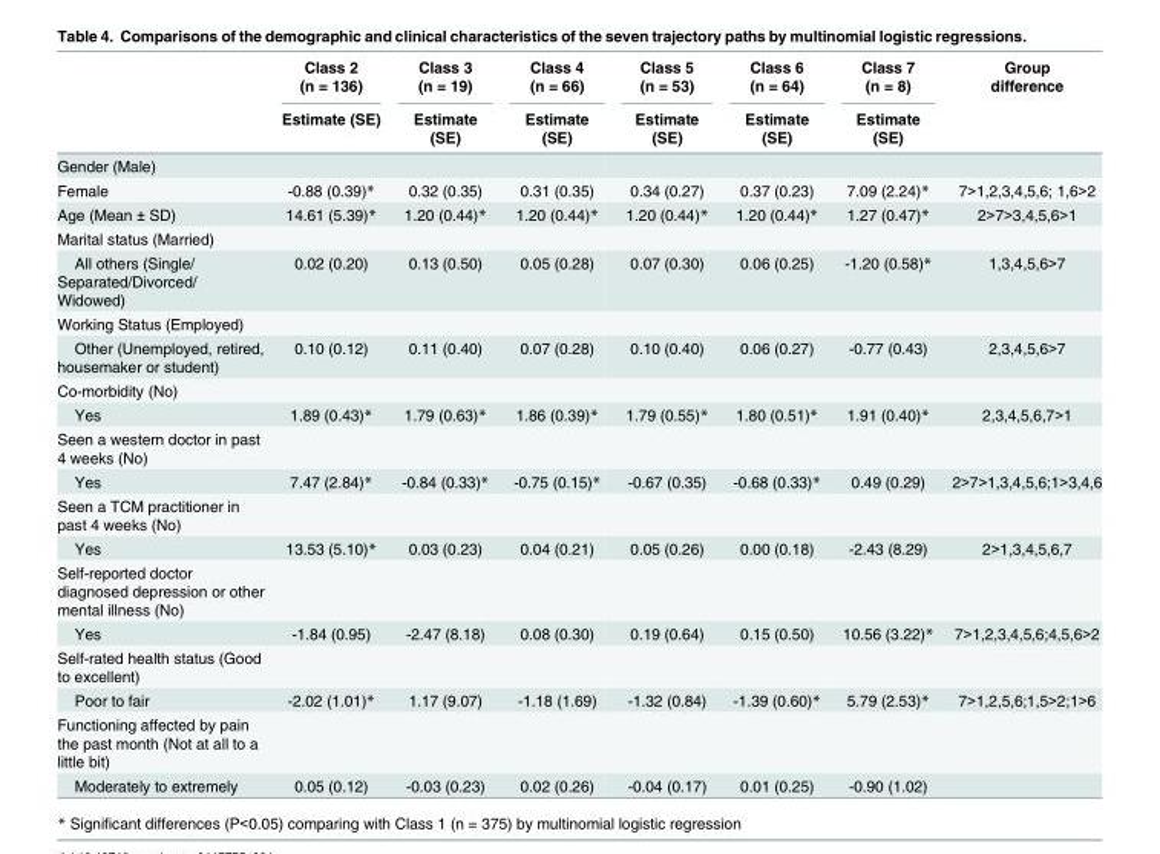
<table><thead><tr><td rowspan="2"></td><td rowspan="2">Class 2 (n = 136) Estimate (SE)</td><td rowspan="2">Class 3 (n = 19) Estimate (SE)</td><td rowspan="2">Class 4 (n = 66) Estimate (SE)</td><td rowspan="2">Class 5 (n = 53) Estimate (SE)</td><td rowspan="2">Class 6 (n = 64) Estimate (SE)</td><td rowspan="2">Class 7 (n = 8) Estimate (SE)</td><td rowspan="2">Group difference</td></tr><tr></tr></thead><tbody><tr><td colspan="8">Gender (Male)</td></tr><tr><td>Female</td><td>-0.88 (0.39)*</td><td>0.32 (0.35)</td><td>0.31 (0.35)</td><td>0.34 (0.27)</td><td>0.37 (0.23)</td><td>7.09 (2.24)*</td><td>7&gt;1,2,3,4,5,6; 1,6&gt;2</td></tr><tr><td>Age (Mean ± SD)</td><td>14.61 (5.39)*</td><td>1.20 (0.44)*</td><td>1.20 (0.44)*</td><td>1.20 (0.44)*</td><td>1.20 (0.44)*</td><td>1.27 (0.47)*</td><td>2&gt;7&gt;3,4,5,6&gt;1</td></tr><tr><td colspan="8">Marital status (Married)</td></tr><tr><td>All others (Single/ Separated/Divorced/ Widowed)</td><td>0.02 (0.20)</td><td>0.13 (0.50)</td><td>0.05 (0.28)</td><td>0.07 (0.30)</td><td>0.06 (0.25)</td><td>-1.20 (0.58)*</td><td>1,3,4,5,6&gt;7</td></tr><tr><td colspan="8">Working Status (Employed)</td></tr><tr><td>Other (Unemployed, retired, housemaker or student)</td><td>0.10 (0.12)</td><td>0.11 (0.40)</td><td>0.07 (0.28)</td><td>0.10 (0.40)</td><td>0.06 (0.27)</td><td>-0.77 (0.43)</td><td>2,3,4,5,6&gt;7</td></tr><tr><td colspan="8">Co-morbidity (No)</td></tr><tr><td>Yes</td><td>1.89 (0.43)*</td><td>1.79 (0.63)*</td><td>1.86 (0.39)*</td><td>1.79 (0.55)*</td><td>1.80 (0.51)*</td><td>1.91 (0.40)*</td><td>2,3,4,5,6,7&gt;1</td></tr><tr><td colspan="8">Seen a western doctor in past 4 weeks (No)</td></tr><tr><td>Yes</td><td>7.47 (2.84)*</td><td>-0.84 (0.33)*</td><td>-0.75 (0.15)*</td><td>-0.67 (0.35)</td><td>-0.68 (0.33)*</td><td>0.49 (0.29)</td><td>2&gt;7&gt;1,3,4,5,6;1&gt;3,4,6</td></tr><tr><td colspan="8">Seen a TCM practitioner in past 4 weeks (No)</td></tr><tr><td>Yes</td><td>13.53 (5.10)*</td><td>0.03 (0.23)</td><td>0.04 (0.21)</td><td>0.05 (0.26)</td><td>0.00 (0.18)</td><td>-2.43 (8.29)</td><td>2&gt;1,3,4,5,6,7</td></tr><tr><td colspan="8">Self-reported doctor diagnosed depression or other mental illness (No)</td></tr><tr><td>Yes</td><td>-1.84 (0.95)</td><td>-2.47 (8.18)</td><td>0.08 (0.30)</td><td>0.19 (0.64)</td><td>0.15 (0.50)</td><td>10.56 (3.22)*</td><td>7&gt;1,2,3,4,5,6;4,5,6&gt;2</td></tr><tr><td colspan="8">Self-rated health status (Good to excellent)</td></tr><tr><td>Poor to fair</td><td>-2.02 (1.01)*</td><td>1.17 (9.07)</td><td>-1.18 (1.69)</td><td>-1.32 (0.84)</td><td>-1.39 (0.60)*</td><td>5.79 (2.53)*</td><td>7&gt;1,2,5,6;1,5&gt;2;1&gt;6</td></tr><tr><td colspan="8">Functioning affected by pain the past month (Not at all to a little bit)</td></tr><tr><td>Moderately to extremely</td><td>0.05 (0.12)</td><td>-0.03 (0.23)</td><td>0.02 (0.26)</td><td>-0.04 (0.17)</td><td>0.01 (0.25)</td><td>-0.90 (1.02)</td><td></td></tr></tbody></table>